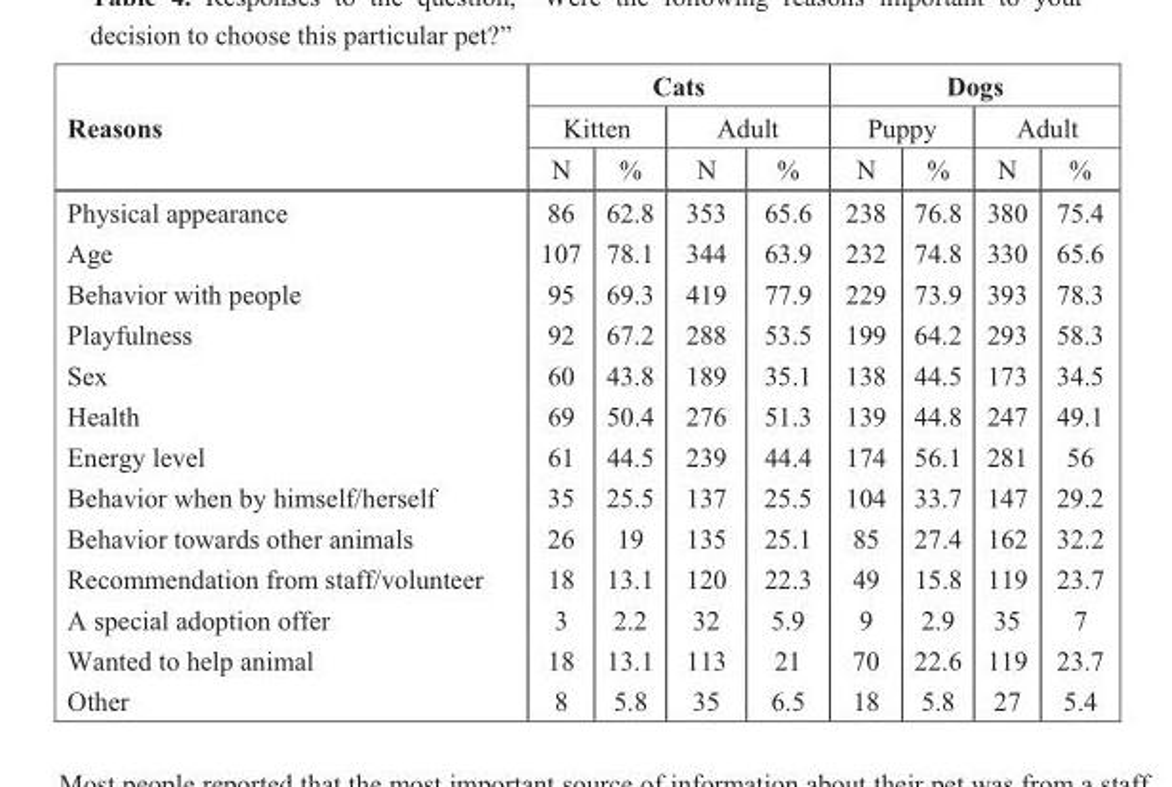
<table><thead><tr><td rowspan="3">Reasons</td><td colspan="4">Cats</td><td colspan="4">Dogs</td></tr><tr><td colspan="2">Kitten</td><td colspan="2">Adult</td><td colspan="2">Puppy</td><td colspan="2">Adult</td></tr><tr><td>N</td><td>%</td><td>N</td><td>%</td><td>N</td><td>%</td><td>N</td><td>%</td></tr></thead><tbody><tr><td>Physical appearance</td><td>86</td><td>62.8</td><td>353</td><td>65.6</td><td>238</td><td>76.8</td><td>380</td><td>75.4</td></tr><tr><td>Age</td><td>107</td><td>78.1</td><td>344</td><td>63.9</td><td>232</td><td>74.8</td><td>330</td><td>65.6</td></tr><tr><td>Behavior with people</td><td>95</td><td>69.3</td><td>419</td><td>77.9</td><td>229</td><td>73.9</td><td>393</td><td>78.3</td></tr><tr><td>Playfulness</td><td>92</td><td>67.2</td><td>288</td><td>53.5</td><td>199</td><td>64.2</td><td>293</td><td>58.3</td></tr><tr><td>Sex</td><td>60</td><td>43.8</td><td>189</td><td>35.1</td><td>138</td><td>44.5</td><td>173</td><td>34.5</td></tr><tr><td>Health</td><td>69</td><td>50.4</td><td>276</td><td>51.3</td><td>139</td><td>44.8</td><td>247</td><td>49.1</td></tr><tr><td>Energy level</td><td>61</td><td>44.5</td><td>239</td><td>44.4</td><td>174</td><td>56.1</td><td>281</td><td>56</td></tr><tr><td>Behavior when by himself/herself</td><td>35</td><td>25.5</td><td>137</td><td>25.5</td><td>104</td><td>33.7</td><td>147</td><td>29.2</td></tr><tr><td>Behavior towards other animals</td><td>26</td><td>19</td><td>135</td><td>25.1</td><td>85</td><td>27.4</td><td>162</td><td>32.2</td></tr><tr><td>Recommendation from staff/volunteer</td><td>18</td><td>13.1</td><td>120</td><td>22.3</td><td>49</td><td>15.8</td><td>119</td><td>23.7</td></tr><tr><td>A special adoption offer</td><td>3</td><td>2.2</td><td>32</td><td>5.9</td><td>9</td><td>2.9</td><td>35</td><td>7</td></tr><tr><td>Wanted to help animal</td><td>18</td><td>13.1</td><td>113</td><td>21</td><td>70</td><td>22.6</td><td>119</td><td>23.7</td></tr><tr><td>Other</td><td>8</td><td>5.8</td><td>35</td><td>6.5</td><td>18</td><td>5.8</td><td>27</td><td>5.4</td></tr></tbody></table>